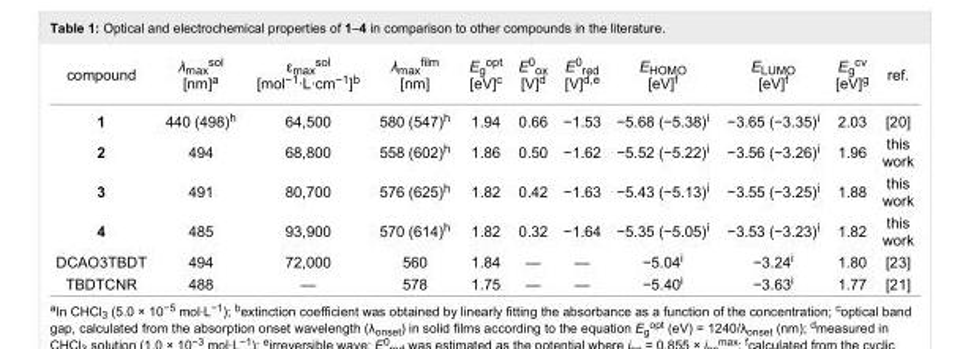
<table><tbody><tr><td>compound</td><td>λ<sub>max</sub><sup>sol</sup> [nm]<sup>a</sup></td><td>ε<sub>max</sub><sup>sol</sup> [mol<sup>−1</sup>·L·cm<sup>−1</sup>]<sup>b</sup></td><td>λ<sub>max</sub><sup>film</sup> [nm]</td><td>E<sub>g</sub><sup>opt</sup> [eV]<sup>c</sup></td><td>E<sup>0</sup><sub>ox</sub> [V]<sup>d</sup></td><td>E<sup>0</sup><sub>red</sub> [V]<sup>d,e</sup></td><td>E<sub>HOMO</sub> [eV]<sup>f</sup></td><td>E<sub>LUMO</sub> [eV]<sup>f</sup></td><td>E<sub>g</sub><sup>cv</sup> [eV]<sup>g</sup></td><td>ref.</td></tr><tr><td>1</td><td>440 (498)<sup>h</sup></td><td>64,500</td><td>580 (547)<sup>h</sup></td><td>1.94</td><td>0.66</td><td>−1.53</td><td>−5.68 (−5.38)<sup>i</sup></td><td>−3.65 (−3.35)<sup>i</sup></td><td>2.03</td><td>[20]</td></tr><tr><td>2</td><td>494</td><td>68,800</td><td>558 (602)<sup>h</sup></td><td>1.86</td><td>0.50</td><td>−1.62</td><td>−5.52 (−5.22)<sup>i</sup></td><td>−3.56 (−3.26)<sup>i</sup></td><td>1.96</td><td>this work</td></tr><tr><td>3</td><td>491</td><td>80,700</td><td>576 (625)<sup>h</sup></td><td>1.82</td><td>0.42</td><td>−1.63</td><td>−5.43 (−5.13)<sup>i</sup></td><td>−3.55 (−3.25)<sup>i</sup></td><td>1.88</td><td>this work</td></tr><tr><td>4</td><td>485</td><td>93,900</td><td>570 (614)<sup>h</sup></td><td>1.82</td><td>0.32</td><td>−1.64</td><td>−5.35 (−5.05)<sup>i</sup></td><td>−3.53 (−3.23)<sup>i</sup></td><td>1.82</td><td>this work</td></tr><tr><td>DCAO3TBDT</td><td>494</td><td>72,000</td><td>560</td><td>1.84</td><td>—</td><td>—</td><td>−5.04<sup>i</sup></td><td>−3.24<sup>i</sup></td><td>1.80</td><td>[23]</td></tr><tr><td>TBDTCNR</td><td>488</td><td>—</td><td>578</td><td>1.75</td><td>—</td><td>—</td><td>−5.40<sup>i</sup></td><td>−3.63<sup>i</sup></td><td>1.77</td><td>[21]</td></tr></tbody></table>